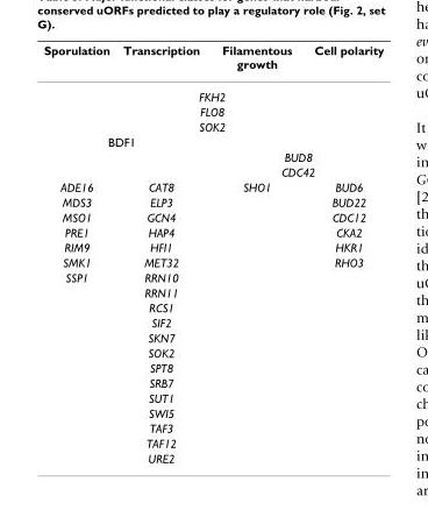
<table><thead><tr><td>Sporulation</td><td>Transcription</td><td>Filamentous growth</td><td>Cell polarity</td></tr></thead><tbody><tr><td></td><td colspan="2">FKH2</td><td></td></tr><tr><td></td><td colspan="2">FLO8</td><td></td></tr><tr><td></td><td colspan="2">SOK2</td><td></td></tr><tr><td colspan="4">BDF1</td></tr><tr><td></td><td></td><td colspan="2">BUD8</td></tr><tr><td></td><td></td><td colspan="2">CDC42</td></tr><tr><td>ADE16</td><td>CAT8</td><td>SHO1</td><td>BUD6</td></tr><tr><td>MDS3</td><td>ELP3</td><td></td><td>BUD22</td></tr><tr><td>MSO1</td><td>GCN4</td><td></td><td>CDC12</td></tr><tr><td>PRE1</td><td>HAP4</td><td></td><td>CKA2</td></tr><tr><td>RIM9</td><td>HFI1</td><td></td><td>HKR1</td></tr><tr><td>SMK1</td><td>MET32</td><td></td><td>RHO3</td></tr><tr><td rowspan="13">SSP1</td><td>RRN10</td><td></td><td></td></tr><tr><td>RRN11</td><td></td><td></td></tr><tr><td>RCS1</td><td></td><td></td></tr><tr><td>SIF2</td><td></td><td></td></tr><tr><td>SKN7</td><td></td><td></td></tr><tr><td>SOK2</td><td></td><td></td></tr><tr><td>SPT8</td><td></td><td></td></tr><tr><td>SRB7</td><td></td><td></td></tr><tr><td>SUT1</td><td></td><td></td></tr><tr><td>SWI5</td><td></td><td></td></tr><tr><td>TAF3</td><td></td><td></td></tr><tr><td>TAF12</td><td></td><td></td></tr><tr><td>URE2</td><td></td><td></td></tr></tbody></table>